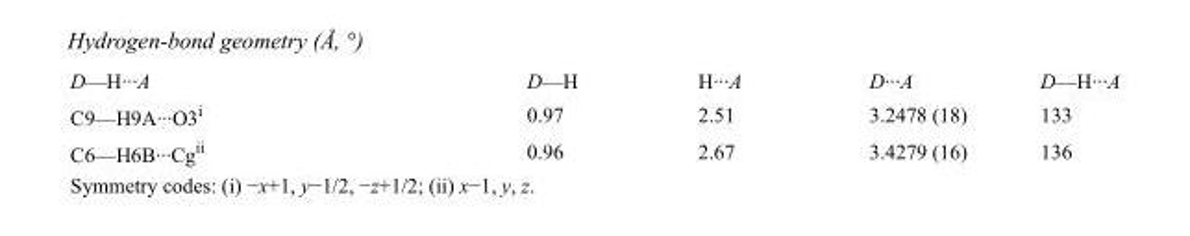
<table><tbody><tr><td>D—H···A</td><td>D—H</td><td>H···A</td><td>D···A</td><td>D—H···A</td></tr><tr><td>C9—H9A···O3<sup>i</sup></td><td>0.97</td><td>2.51</td><td>3.2478 (18)</td><td>133</td></tr><tr><td>C6—H6B···Cg<sup>ii</sup></td><td>0.96</td><td>2.67</td><td>3.4279 (16)</td><td>136</td></tr></tbody></table>